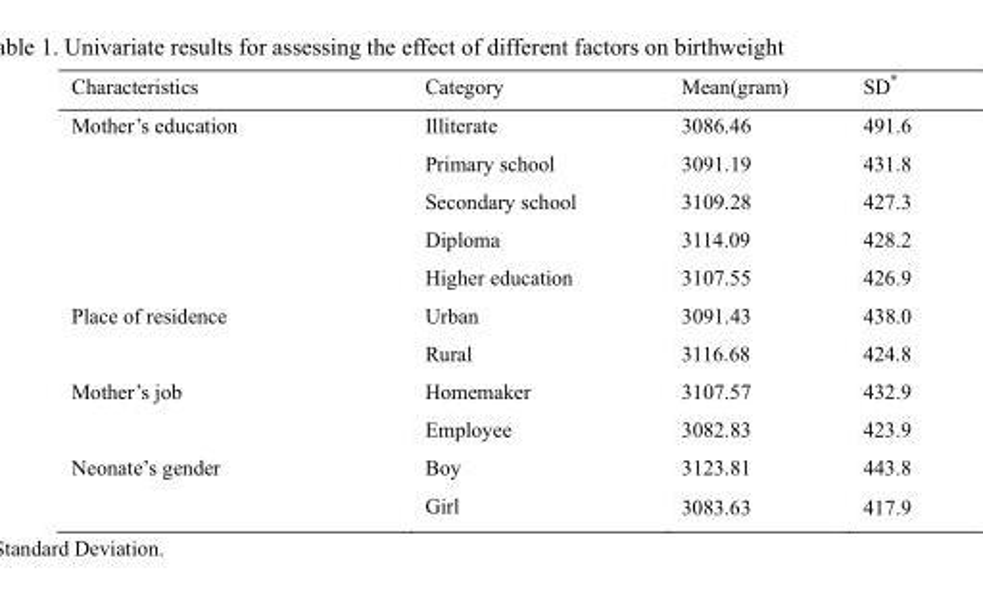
<table><thead><tr><td>Characteristics</td><td>Category</td><td>Mean(gram)</td><td>SD*</td></tr></thead><tbody><tr><td rowspan="5">Mother’s education</td><td>Illiterate</td><td>3086.46</td><td>491.6</td></tr><tr><td>Primary school</td><td>3091.19</td><td>431.8</td></tr><tr><td>Secondary school</td><td>3109.28</td><td>427.3</td></tr><tr><td>Diploma</td><td>3114.09</td><td>428.2</td></tr><tr><td>Higher education</td><td>3107.55</td><td>426.9</td></tr><tr><td rowspan="2">Place of residence</td><td>Urban</td><td>3091.43</td><td>438.0</td></tr><tr><td>Rural</td><td>3116.68</td><td>424.8</td></tr><tr><td rowspan="2">Mother’s job</td><td>Homemaker</td><td>3107.57</td><td>432.9</td></tr><tr><td>Employee</td><td>3082.83</td><td>423.9</td></tr><tr><td rowspan="2">Neonate’s gender</td><td>Boy</td><td>3123.81</td><td>443.8</td></tr><tr><td>Girl</td><td>3083.63</td><td>417.9</td></tr></tbody></table>